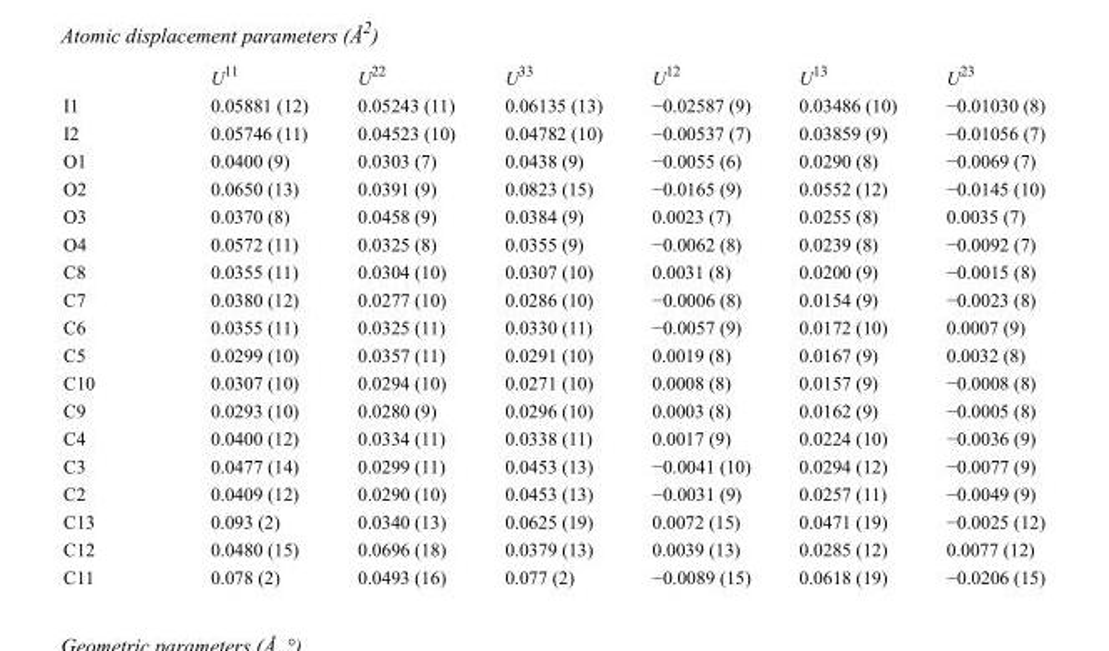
<table><thead><tr><td></td><td>U<sup>11</sup></td><td>U<sup>22</sup></td><td>U<sup>33</sup></td><td>U<sup>12</sup></td><td>U<sup>13</sup></td><td>U<sup>23</sup></td></tr></thead><tbody><tr><td>I1</td><td>0.05881 (12)</td><td>0.05243 (11)</td><td>0.06135 (13)</td><td>−0.02587 (9)</td><td>0.03486 (10)</td><td>−0.01030 (8)</td></tr><tr><td>I2</td><td>0.05746 (11)</td><td>0.04523 (10)</td><td>0.04782 (10)</td><td>−0.00537 (7)</td><td>0.03859 (9)</td><td>−0.01056 (7)</td></tr><tr><td>O1</td><td>0.0400 (9)</td><td>0.0303 (7)</td><td>0.0438 (9)</td><td>−0.0055 (6)</td><td>0.0290 (8)</td><td>−0.0069 (7)</td></tr><tr><td>O2</td><td>0.0650 (13)</td><td>0.0391 (9)</td><td>0.0823 (15)</td><td>−0.0165 (9)</td><td>0.0552 (12)</td><td>−0.0145 (10)</td></tr><tr><td>O3</td><td>0.0370 (8)</td><td>0.0458 (9)</td><td>0.0384 (9)</td><td>0.0023 (7)</td><td>0.0255 (8)</td><td>0.0035 (7)</td></tr><tr><td>O4</td><td>0.0572 (11)</td><td>0.0325 (8)</td><td>0.0355 (9)</td><td>−0.0062 (8)</td><td>0.0239 (8)</td><td>−0.0092 (7)</td></tr><tr><td>C8</td><td>0.0355 (11)</td><td>0.0304 (10)</td><td>0.0307 (10)</td><td>0.0031 (8)</td><td>0.0200 (9)</td><td>−0.0015 (8)</td></tr><tr><td>C7</td><td>0.0380 (12)</td><td>0.0277 (10)</td><td>0.0286 (10)</td><td>−0.0006 (8)</td><td>0.0154 (9)</td><td>−0.0023 (8)</td></tr><tr><td>C6</td><td>0.0355 (11)</td><td>0.0325 (11)</td><td>0.0330 (11)</td><td>−0.0057 (9)</td><td>0.0172 (10)</td><td>0.0007 (9)</td></tr><tr><td>C5</td><td>0.0299 (10)</td><td>0.0357 (11)</td><td>0.0291 (10)</td><td>0.0019 (8)</td><td>0.0167 (9)</td><td>0.0032 (8)</td></tr><tr><td>C10</td><td>0.0307 (10)</td><td>0.0294 (10)</td><td>0.0271 (10)</td><td>0.0008 (8)</td><td>0.0157 (9)</td><td>−0.0008 (8)</td></tr><tr><td>C9</td><td>0.0293 (10)</td><td>0.0280 (9)</td><td>0.0296 (10)</td><td>0.0003 (8)</td><td>0.0162 (9)</td><td>−0.0005 (8)</td></tr><tr><td>C4</td><td>0.0400 (12)</td><td>0.0334 (11)</td><td>0.0338 (11)</td><td>0.0017 (9)</td><td>0.0224 (10)</td><td>−0.0036 (9)</td></tr><tr><td>C3</td><td>0.0477 (14)</td><td>0.0299 (11)</td><td>0.0453 (13)</td><td>−0.0041 (10)</td><td>0.0294 (12)</td><td>−0.0077 (9)</td></tr><tr><td>C2</td><td>0.0409 (12)</td><td>0.0290 (10)</td><td>0.0453 (13)</td><td>−0.0031 (9)</td><td>0.0257 (11)</td><td>−0.0049 (9)</td></tr><tr><td>C13</td><td>0.093 (2)</td><td>0.0340 (13)</td><td>0.0625 (19)</td><td>0.0072 (15)</td><td>0.0471 (19)</td><td>−0.0025 (12)</td></tr><tr><td>C12</td><td>0.0480 (15)</td><td>0.0696 (18)</td><td>0.0379 (13)</td><td>0.0039 (13)</td><td>0.0285 (12)</td><td>0.0077 (12)</td></tr><tr><td>C11</td><td>0.078 (2)</td><td>0.0493 (16)</td><td>0.077 (2)</td><td>−0.0089 (15)</td><td>0.0618 (19)</td><td>−0.0206 (15)</td></tr></tbody></table>